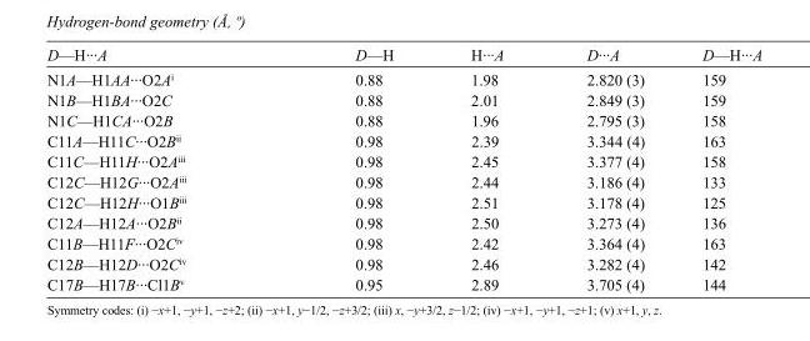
<table><tbody><tr><td>D—H···A</td><td>D—H</td><td>H···A</td><td>D···A</td><td>D—H···A</td></tr><tr><td>N1A—H1AA···O2A<sup>i</sup></td><td>0.88</td><td>1.98</td><td>2.820 (3)</td><td>159</td></tr><tr><td>N1B—H1BA···O2C</td><td>0.88</td><td>2.01</td><td>2.849 (3)</td><td>159</td></tr><tr><td>N1C—H1CA···O2B</td><td>0.88</td><td>1.96</td><td>2.795 (3)</td><td>158</td></tr><tr><td>C11A—H11C···O2B<sup>ii</sup></td><td>0.98</td><td>2.39</td><td>3.344 (4)</td><td>163</td></tr><tr><td>C11C—H11H···O2A<sup>iii</sup></td><td>0.98</td><td>2.45</td><td>3.377 (4)</td><td>158</td></tr><tr><td>C12C—H12G···O2A<sup>iii</sup></td><td>0.98</td><td>2.44</td><td>3.186 (4)</td><td>133</td></tr><tr><td>C12C—H12H···O1B<sup>iii</sup></td><td>0.98</td><td>2.51</td><td>3.178 (4)</td><td>125</td></tr><tr><td>C12A—H12A···O2B<sup>ii</sup></td><td>0.98</td><td>2.50</td><td>3.273 (4)</td><td>136</td></tr><tr><td>C11B—H11F···O2C<sup>iv</sup></td><td>0.98</td><td>2.42</td><td>3.364 (4)</td><td>163</td></tr><tr><td>C12B—H12D···O2C<sup>iv</sup></td><td>0.98</td><td>2.46</td><td>3.282 (4)</td><td>142</td></tr><tr><td>C17B—H17B···Cl1B<sup>v</sup></td><td>0.95</td><td>2.89</td><td>3.705 (4)</td><td>144</td></tr></tbody></table>